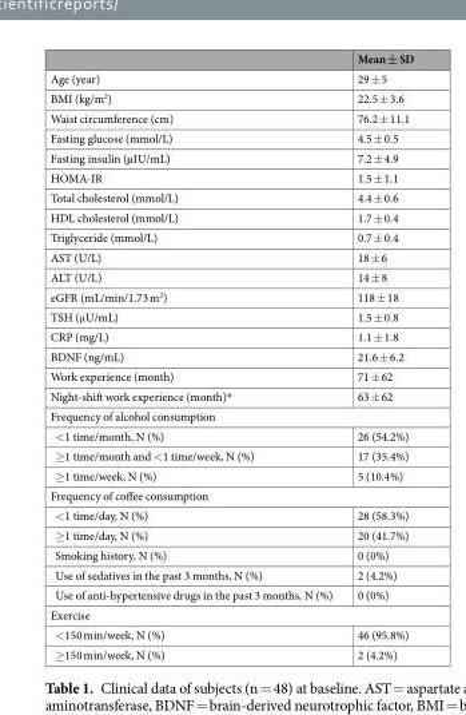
<table><thead><tr><td></td><td>Mean ± SD</td></tr></thead><tbody><tr><td>Age (year)</td><td>29 ± 5</td></tr><tr><td>BMI (kg/m<sup>2</sup>)</td><td>22.5 ± 3.6</td></tr><tr><td>Waist circumference (cm)</td><td>76.2 ± 11.1</td></tr><tr><td>Fasting glucose (mmol/L)</td><td>4.5 ± 0.5</td></tr><tr><td>Fasting insulin (µIU/mL)</td><td>7.2 ± 4.9</td></tr><tr><td>HOMA-IR</td><td>1.5 ± 1.1</td></tr><tr><td>Total cholesterol (mmol/L)</td><td>4.4 ± 0.6</td></tr><tr><td>HDL cholesterol (mmol/L)</td><td>1.7 ± 0.4</td></tr><tr><td>Triglyceride (mmol/L)</td><td>0.7 ± 0.4</td></tr><tr><td>AST (U/L)</td><td>18 ± 6</td></tr><tr><td>ALT (U/L)</td><td>14 ± 8</td></tr><tr><td>eGFR (mL/min/1.73 m<sup>2</sup>)</td><td>118 ± 18</td></tr><tr><td>TSH (μU/mL)</td><td>1.5 ± 0.8</td></tr><tr><td>CRP (mg/L)</td><td>1.1 ± 1.8</td></tr><tr><td>BDNF (ng/mL)</td><td>21.6 ± 6.2</td></tr><tr><td>Work experience (month)</td><td>71 ± 62</td></tr><tr><td>Night-shift work experience (month)*</td><td>63 ± 62</td></tr><tr><td colspan="2">Frequency of alcohol consumption</td></tr><tr><td>&lt;1 time/month, N (%)</td><td>26 (54.2%)</td></tr><tr><td>≥1 time/month and &lt;1 time/week, N (%)</td><td>17 (35.4%)</td></tr><tr><td>≥1 time/week, N (%)</td><td>5 (10.4%)</td></tr><tr><td colspan="2">Frequency of coffee consumption</td></tr><tr><td>&lt;1 time/day, N (%)</td><td>28 (58.3%)</td></tr><tr><td>≥1 time/day, N (%)</td><td>20 (41.7%)</td></tr><tr><td>Smoking history, N (%)</td><td>0 (0%)</td></tr><tr><td>Use of sedatives in the past 3 months, N (%)</td><td>2 (4.2%)</td></tr><tr><td>Use of anti-hypertensive drugs in the past 3 months, N (%)</td><td>0 (0%)</td></tr><tr><td colspan="2">Exercise</td></tr><tr><td>&lt;150 min/week, N (%)</td><td>46 (95.8%)</td></tr><tr><td>≥150 min/week, N (%)</td><td>2 (4.2%)</td></tr></tbody></table>